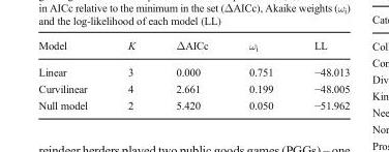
<table><thead><tr><td>Model</td><td>K</td><td>ΔAICc</td><td>ω<sub>i</sub></td><td>LL</td></tr></thead><tbody><tr><td>Linear</td><td>3</td><td>0.000</td><td>0.751</td><td>−48.013</td></tr><tr><td>Curvilinear</td><td>4</td><td>2.661</td><td>0.199</td><td>−48.005</td></tr><tr><td>Null model</td><td>2</td><td>5.420</td><td>0.050</td><td>−51.962</td></tr></tbody></table>